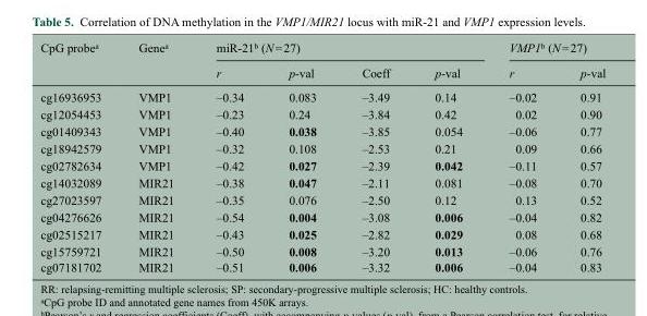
<table><thead><tr><td rowspan="2">CpG probe<sup>a</sup></td><td rowspan="2">Gene<sup>a</sup></td><td colspan="4">miR-21<sup>b</sup> (N = 27)</td><td colspan="2">VMP1<sup>b</sup> (N = 27)</td></tr><tr><td>r</td><td>p-val</td><td>Coeff</td><td>p-val</td><td>r</td><td>p-val</td></tr></thead><tbody><tr><td>cg16936953</td><td>VMP1</td><td>–0.34</td><td>0.083</td><td>–3.49</td><td>0.14</td><td>–0.02</td><td>0.91</td></tr><tr><td>cg12054453</td><td>VMP1</td><td>–0.23</td><td>0.24</td><td>–3.84</td><td>0.42</td><td>0.02</td><td>0.90</td></tr><tr><td>cg01409343</td><td>VMP1</td><td>–0.40</td><td>0.038</td><td>–3.85</td><td>0.054</td><td>–0.06</td><td>0.77</td></tr><tr><td>cg18942579</td><td>VMP1</td><td>–0.32</td><td>0.108</td><td>–2.53</td><td>0.21</td><td>0.09</td><td>0.66</td></tr><tr><td>cg02782634</td><td>VMP1</td><td>–0.42</td><td>0.027</td><td>–2.39</td><td>0.042</td><td>–0.11</td><td>0.57</td></tr><tr><td>cg14032089</td><td>MIR21</td><td>–0.38</td><td>0.047</td><td>–2.11</td><td>0.081</td><td>–0.08</td><td>0.70</td></tr><tr><td>cg27023597</td><td>MIR21</td><td>–0.35</td><td>0.076</td><td>–2.50</td><td>0.12</td><td>0.13</td><td>0.52</td></tr><tr><td>cg04276626</td><td>MIR21</td><td>–0.54</td><td>0.004</td><td>–3.08</td><td>0.006</td><td>–0.04</td><td>0.82</td></tr><tr><td>cg02515217</td><td>MIR21</td><td>–0.43</td><td>0.025</td><td>–2.82</td><td>0.029</td><td>0.08</td><td>0.68</td></tr><tr><td>cg15759721</td><td>MIR21</td><td>–0.50</td><td>0.008</td><td>–3.20</td><td>0.013</td><td>–0.06</td><td>0.76</td></tr><tr><td>cg07181702</td><td>MIR21</td><td>–0.51</td><td>0.006</td><td>–3.32</td><td>0.006</td><td>–0.04</td><td>0.83</td></tr></tbody></table>